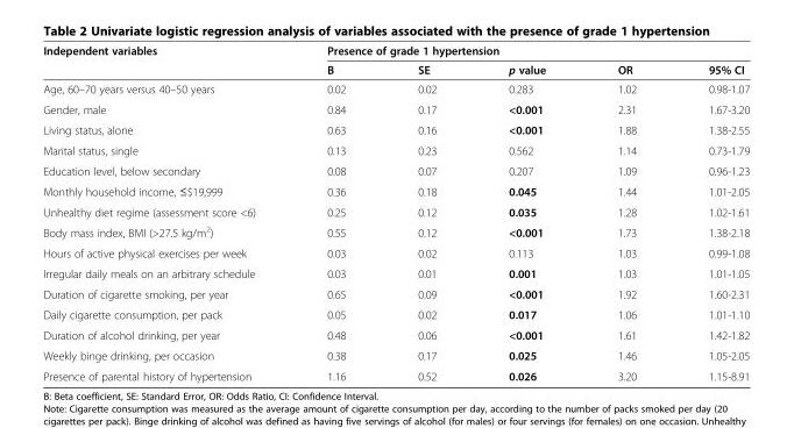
<table><thead><tr><td rowspan="2">Independent variables</td><td colspan="5">Presence of grade 1 hypertension</td></tr><tr><td>B</td><td>SE</td><td>p value</td><td>OR</td><td>95% CI</td></tr></thead><tbody><tr><td>Age, 60–70 years versus 40–50 years</td><td>0.02</td><td>0.02</td><td>0.283</td><td>1.02</td><td>0.98-1.07</td></tr><tr><td>Gender, male</td><td>0.84</td><td>0.17</td><td>&lt;0.001</td><td>2.31</td><td>1.67-3.20</td></tr><tr><td>Living status, alone</td><td>0.63</td><td>0.16</td><td>&lt;0.001</td><td>1.88</td><td>1.38-2.55</td></tr><tr><td>Marital status, single</td><td>0.13</td><td>0.23</td><td>0.562</td><td>1.14</td><td>0.73-1.79</td></tr><tr><td>Education level, below secondary</td><td>0.08</td><td>0.07</td><td>0.207</td><td>1.09</td><td>0.96-1.23</td></tr><tr><td>Monthly household income, ≤$19,999</td><td>0.36</td><td>0.18</td><td>0.045</td><td>1.44</td><td>1.01-2.05</td></tr><tr><td>Unhealthy diet regime (assessment score &lt;6)</td><td>0.25</td><td>0.12</td><td>0.035</td><td>1.28</td><td>1.02-1.61</td></tr><tr><td>Body mass index, BMI (&gt;27.5 kg/m<sup>2</sup>)</td><td>0.55</td><td>0.12</td><td>&lt;0.001</td><td>1.73</td><td>1.38-2.18</td></tr><tr><td>Hours of active physical exercises per week</td><td>0.03</td><td>0.02</td><td>0.113</td><td>1.03</td><td>0.99-1.08</td></tr><tr><td>Irregular daily meals on an arbitrary schedule</td><td>0.03</td><td>0.01</td><td>0.001</td><td>1.03</td><td>1.01-1.05</td></tr><tr><td>Duration of cigarette smoking, per year</td><td>0.65</td><td>0.09</td><td>&lt;0.001</td><td>1.92</td><td>1.60-2.31</td></tr><tr><td>Daily cigarette consumption, per pack</td><td>0.05</td><td>0.02</td><td>0.017</td><td>1.06</td><td>1.01-1.10</td></tr><tr><td>Duration of alcohol drinking, per year</td><td>0.48</td><td>0.06</td><td>&lt;0.001</td><td>1.61</td><td>1.42-1.82</td></tr><tr><td>Weekly binge drinking, per occasion</td><td>0.38</td><td>0.17</td><td>0.025</td><td>1.46</td><td>1.05-2.05</td></tr><tr><td>Presence of parental history of hypertension</td><td>1.16</td><td>0.52</td><td>0.026</td><td>3.20</td><td>1.15-8.91</td></tr></tbody></table>